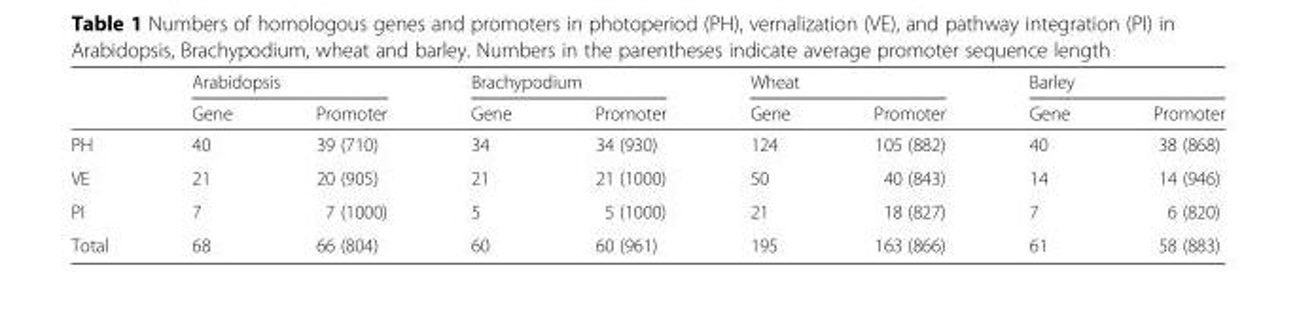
<table><thead><tr><td rowspan="2"></td><td colspan="2">Arabidopsis</td><td colspan="2">Brachypodium</td><td colspan="2">Wheat</td><td colspan="2">Barley</td></tr><tr><td>Gene</td><td>Promoter</td><td>Gene</td><td>Promoter</td><td>Gene</td><td>Promoter</td><td>Gene</td><td>Promoter</td></tr></thead><tbody><tr><td>PH</td><td>40</td><td>39 (710)</td><td>34</td><td>34 (930)</td><td>124</td><td>105 (882)</td><td>40</td><td>38 (868)</td></tr><tr><td>VE</td><td>21</td><td>20 (905)</td><td>21</td><td>21 (1000)</td><td>50</td><td>40 (843)</td><td>14</td><td>14 (946)</td></tr><tr><td>PI</td><td>7</td><td>7 (1000)</td><td>5</td><td>5 (1000)</td><td>21</td><td>18 (827)</td><td>7</td><td>6 (820)</td></tr><tr><td>Total</td><td>68</td><td>66 (804)</td><td>60</td><td>60 (961)</td><td>195</td><td>163 (866)</td><td>61</td><td>58 (883)</td></tr></tbody></table>